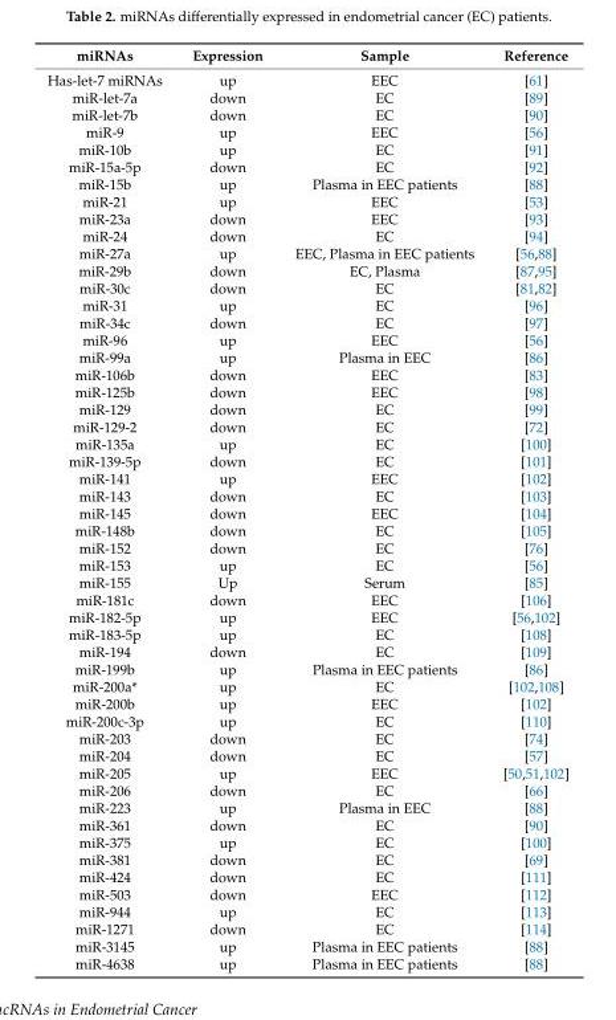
<table><thead><tr><td>miRNAs</td><td>Expression</td><td>Sample</td><td>Reference</td></tr></thead><tbody><tr><td>Has-let-7 miRNAs</td><td>up</td><td>EEC</td><td>[61]</td></tr><tr><td>miR-let-7a</td><td>down</td><td>EC</td><td>[89]</td></tr><tr><td>miR-let-7b</td><td>down</td><td>EC</td><td>[90]</td></tr><tr><td>miR-9</td><td>up</td><td>EEC</td><td>[56]</td></tr><tr><td>miR-10b</td><td>up</td><td>EC</td><td>[91]</td></tr><tr><td>miR-15a-5p</td><td>down</td><td>EC</td><td>[92]</td></tr><tr><td>miR-15b</td><td>up</td><td>Plasma in EEC patients</td><td>[88]</td></tr><tr><td>miR-21</td><td>up</td><td>EEC</td><td>[53]</td></tr><tr><td>miR-23a</td><td>down</td><td>EEC</td><td>[93]</td></tr><tr><td>miR-24</td><td>down</td><td>EC</td><td>[94]</td></tr><tr><td>miR-27a</td><td>up</td><td>EEC, Plasma in EEC patients</td><td>[56,88]</td></tr><tr><td>miR-29b</td><td>down</td><td>EC, Plasma</td><td>[87,95]</td></tr><tr><td>miR-30c</td><td>down</td><td>EC</td><td>[81,82]</td></tr><tr><td>miR-31</td><td>up</td><td>EC</td><td>[96]</td></tr><tr><td>miR-34c</td><td>down</td><td>EC</td><td>[97]</td></tr><tr><td>miR-96</td><td>up</td><td>EEC</td><td>[56]</td></tr><tr><td>miR-99a</td><td>up</td><td>Plasma in EEC</td><td>[86]</td></tr><tr><td>miR-106b</td><td>down</td><td>EEC</td><td>[83]</td></tr><tr><td>miR-125b</td><td>down</td><td>EEC</td><td>[98]</td></tr><tr><td>miR-129</td><td>down</td><td>EC</td><td>[99]</td></tr><tr><td>miR-129-2</td><td>down</td><td>EC</td><td>[72]</td></tr><tr><td>miR-135a</td><td>up</td><td>EC</td><td>[100]</td></tr><tr><td>miR-139-5p</td><td>down</td><td>EC</td><td>[101]</td></tr><tr><td>miR-141</td><td>up</td><td>EEC</td><td>[102]</td></tr><tr><td>miR-143</td><td>down</td><td>EC</td><td>[103]</td></tr><tr><td>miR-145</td><td>down</td><td>EEC</td><td>[104]</td></tr><tr><td>miR-148b</td><td>down</td><td>EC</td><td>[105]</td></tr><tr><td>miR-152</td><td>down</td><td>EC</td><td>[76]</td></tr><tr><td>miR-153</td><td>up</td><td>EC</td><td>[56]</td></tr><tr><td>miR-155</td><td>Up</td><td>Serum</td><td>[85]</td></tr><tr><td>miR-181c</td><td>down</td><td>EEC</td><td>[106]</td></tr><tr><td>miR-182-5p</td><td>up</td><td>EEC</td><td>[56,102]</td></tr><tr><td>miR-183-5p</td><td>up</td><td>EC</td><td>[108]</td></tr><tr><td>miR-194</td><td>down</td><td>EC</td><td>[109]</td></tr><tr><td>miR-199b</td><td>up</td><td>Plasma in EEC patients</td><td>[86]</td></tr><tr><td>miR-200a*</td><td>up</td><td>EC</td><td>[102,108]</td></tr><tr><td>miR-200b</td><td>up</td><td>EEC</td><td>[102]</td></tr><tr><td>miR-200c-3p</td><td>up</td><td>EC</td><td>[110]</td></tr><tr><td>miR-203</td><td>down</td><td>EC</td><td>[74]</td></tr><tr><td>miR-204</td><td>down</td><td>EC</td><td>[57]</td></tr><tr><td>miR-205</td><td>up</td><td>EEC</td><td>[50,51,102]</td></tr><tr><td>miR-206</td><td>down</td><td>EC</td><td>[66]</td></tr><tr><td>miR-223</td><td>up</td><td>Plasma in EEC</td><td>[88]</td></tr><tr><td>miR-361</td><td>down</td><td>EC</td><td>[90]</td></tr><tr><td>miR-375</td><td>up</td><td>EC</td><td>[100]</td></tr><tr><td>miR-381</td><td>down</td><td>EC</td><td>[69]</td></tr><tr><td>miR-424</td><td>down</td><td>EC</td><td>[111]</td></tr><tr><td>miR-503</td><td>down</td><td>EEC</td><td>[112]</td></tr><tr><td>miR-944</td><td>up</td><td>EC</td><td>[113]</td></tr><tr><td>miR-1271</td><td>down</td><td>EC</td><td>[114]</td></tr><tr><td>miR-3145</td><td>up</td><td>Plasma in EEC patients</td><td>[88]</td></tr><tr><td>miR-4638</td><td>up</td><td>Plasma in EEC patients</td><td>[88]</td></tr></tbody></table>